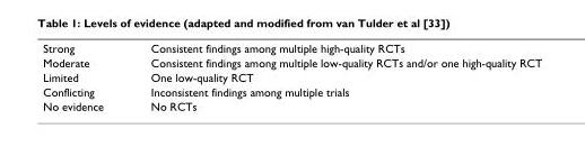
<table><tbody><tr><td>Strong</td><td>Consistent findings among multiple high-quality RCTs</td></tr><tr><td>Moderate</td><td>Consistent findings among multiple low-quality RCTs and/or one high-quality RCT</td></tr><tr><td>Limited</td><td>One low-quality RCT</td></tr><tr><td>Conflicting</td><td>Inconsistent findings among multiple trials</td></tr><tr><td>No evidence</td><td>No RCTs</td></tr></tbody></table>